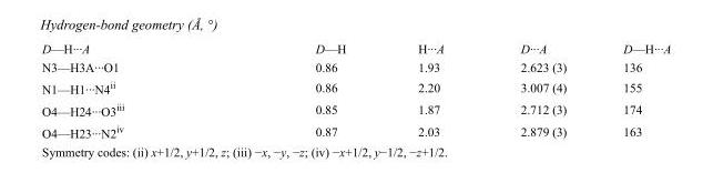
<table><tbody><tr><td>D—H···A</td><td>D—H</td><td>H···A</td><td>D···A</td><td>D—H···A</td></tr><tr><td>N3—H3A···O1</td><td>0.86</td><td>1.93</td><td>2.623 (3)</td><td>136</td></tr><tr><td>N1—H1···N4<sup>ii</sup></td><td>0.86</td><td>2.20</td><td>3.007 (4)</td><td>155</td></tr><tr><td>O4—H24···O3<sup>iii</sup></td><td>0.85</td><td>1.87</td><td>2.712 (3)</td><td>174</td></tr><tr><td>O4—H23···N2<sup>iv</sup></td><td>0.87</td><td>2.03</td><td>2.879 (3)</td><td>163</td></tr></tbody></table>